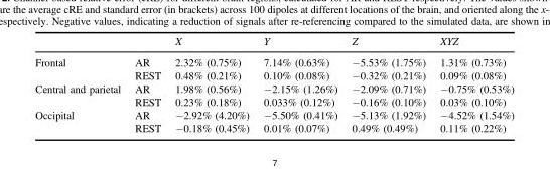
<table><thead><tr><td></td><td></td><td>X</td><td>Y</td><td>Z</td><td>XYZ</td></tr></thead><tbody><tr><td rowspan="2">Frontal</td><td>AR</td><td>2.32% (0.75%)</td><td>7.14% (0.63%)</td><td>−5.53% (1.75%)</td><td>1.31% (0.73%)</td></tr><tr><td>REST</td><td>0.48% (0.21%)</td><td>0.10% (0.08%)</td><td>−0.32% (0.21%)</td><td>0.09% (0.08%)</td></tr><tr><td rowspan="2">Central and parietal</td><td>AR</td><td>1.98% (0.56%)</td><td>−2.15% (1.26%)</td><td>−2.09% (0.71%)</td><td>−0.75% (0.53%)</td></tr><tr><td>REST</td><td>0.23% (0.18%)</td><td>0.033% (0.12%)</td><td>−0.16% (0.10%)</td><td>0.03% (0.10%)</td></tr><tr><td rowspan="2">Occipital</td><td>AR</td><td>−2.92% (4.20%)</td><td>−5.50% (0.41%)</td><td>−5.13% (1.92%)</td><td>−4.52% (1.54%)</td></tr><tr><td>REST</td><td>−0.18% (0.45%)</td><td>0.01% (0.07%)</td><td>0.49% (0.49%)</td><td>0.11% (0.22%)</td></tr></tbody></table>